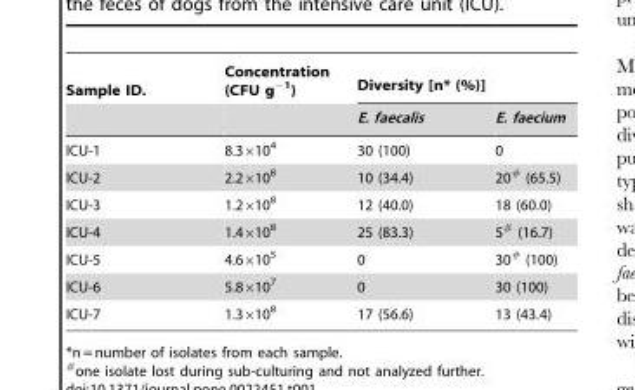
<table><thead><tr><td rowspan="2">Sample ID.</td><td rowspan="2">Concentration (CFU g<sup>−1</sup>)</td><td colspan="2">Diversity [n* (%)]</td></tr><tr><td>E. faecalis</td><td>E. faecium</td></tr></thead><tbody><tr><td>ICU-1</td><td>8.3×10<sup>4</sup></td><td>30 (100)</td><td>0</td></tr><tr><td>ICU-2</td><td>2.2×10<sup>8</sup></td><td>10 (34.4)</td><td>20# (65.5)</td></tr><tr><td>ICU-3</td><td>1.2×10<sup>8</sup></td><td>12 (40.0)</td><td>18 (60.0)</td></tr><tr><td>ICU-4</td><td>1.4×10<sup>8</sup></td><td>25 (83.3)</td><td>5# (16.7)</td></tr><tr><td>ICU-5</td><td>4.6×10<sup>5</sup></td><td>0</td><td>30# (100)</td></tr><tr><td>ICU-6</td><td>5.8×10<sup>7</sup></td><td>0</td><td>30 (100)</td></tr><tr><td>ICU-7</td><td>1.3×10<sup>8</sup></td><td>17 (56.6)</td><td>13 (43.4)</td></tr></tbody></table>